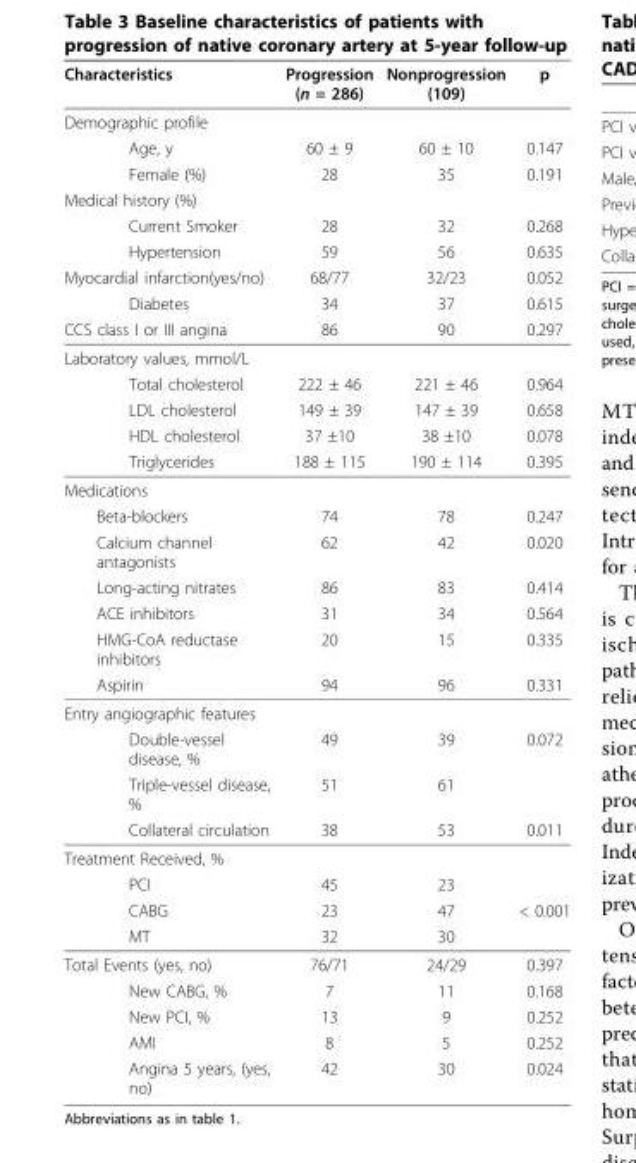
<table><thead><tr><td>Characteristics</td><td>Progression (n = 286)</td><td>Nonprogression (109)</td><td>p</td></tr></thead><tbody><tr><td colspan="4">Demographic profile</td></tr><tr><td>Age, y</td><td>60 ± 9</td><td>60 ± 10</td><td>0.147</td></tr><tr><td>Female (%)</td><td>28</td><td>35</td><td>0.191</td></tr><tr><td colspan="4">Medical history (%)</td></tr><tr><td>Current Smoker</td><td>28</td><td>32</td><td>0.268</td></tr><tr><td>Hypertension</td><td>59</td><td>56</td><td>0.635</td></tr><tr><td>Myocardial infarction(yes/no)</td><td>68/77</td><td>32/23</td><td>0.052</td></tr><tr><td>Diabetes</td><td>34</td><td>37</td><td>0.615</td></tr><tr><td>CCS class I or III angina</td><td>86</td><td>90</td><td>0.297</td></tr><tr><td colspan="4">Laboratory values, mmol/L</td></tr><tr><td>Total cholesterol</td><td>222 ± 46</td><td>221 ± 46</td><td>0.964</td></tr><tr><td>LDL cholesterol</td><td>149 ± 39</td><td>147 ± 39</td><td>0.658</td></tr><tr><td>HDL cholesterol</td><td>37 ±10</td><td>38 ±10</td><td>0.078</td></tr><tr><td>Triglycerides</td><td>188 ± 115</td><td>190 ± 114</td><td>0.395</td></tr><tr><td colspan="4">Medications</td></tr><tr><td>Beta-blockers</td><td>74</td><td>78</td><td>0.247</td></tr><tr><td>Calcium channel antagonists</td><td>62</td><td>42</td><td>0.020</td></tr><tr><td>Long-acting nitrates</td><td>86</td><td>83</td><td>0.414</td></tr><tr><td>ACE inhibitors</td><td>31</td><td>34</td><td>0.564</td></tr><tr><td>HMG-CoA reductase inhibitors</td><td>20</td><td>15</td><td>0.335</td></tr><tr><td>Aspirin</td><td>94</td><td>96</td><td>0.331</td></tr><tr><td colspan="4">Entry angiographic features</td></tr><tr><td>Double-vessel disease, %</td><td>49</td><td>39</td><td>0.072</td></tr><tr><td>Triple-vessel disease, %</td><td>51</td><td>61</td><td></td></tr><tr><td>Collateral circulation</td><td>38</td><td>53</td><td>0.011</td></tr><tr><td colspan="4">Treatment Received, %</td></tr><tr><td>PCI</td><td>45</td><td>23</td><td></td></tr><tr><td>CABG</td><td>23</td><td>47</td><td>&lt; 0.001</td></tr><tr><td>MT</td><td>32</td><td>30</td><td></td></tr><tr><td>Total Events (yes, no)</td><td>76/71</td><td>24/29</td><td>0.397</td></tr><tr><td>New CABG, %</td><td>7</td><td>11</td><td>0.168</td></tr><tr><td>New PCI, %</td><td>13</td><td>9</td><td>0.252</td></tr><tr><td>AMI</td><td>8</td><td>5</td><td>0.252</td></tr><tr><td>Angina 5 years, (yes, no)</td><td>42</td><td>30</td><td>0.024</td></tr></tbody></table>